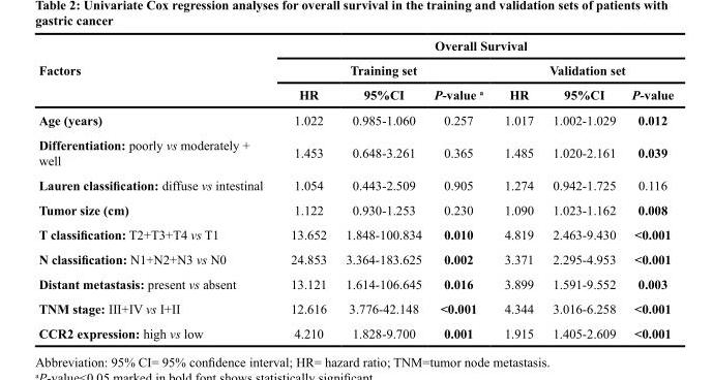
<table><thead><tr><td rowspan="3">Factors</td><td colspan="6">Overall Survival</td></tr><tr><td colspan="3">Training set</td><td colspan="3">Validation set</td></tr><tr><td>HR</td><td>95%CI</td><td>P-value a</td><td>HR</td><td>95%CI</td><td>P-value</td></tr></thead><tbody><tr><td>Age (years)</td><td>1.022</td><td>0.985-1.060</td><td>0.257</td><td>1.017</td><td>1.002-1.029</td><td>0.012</td></tr><tr><td>Differentiation: poorly vs moderately + well</td><td>1.453</td><td>0.648-3.261</td><td>0.365</td><td>1.485</td><td>1.020-2.161</td><td>0.039</td></tr><tr><td>Lauren classification: diffuse vs intestinal</td><td>1.054</td><td>0.443-2.509</td><td>0.905</td><td>1.274</td><td>0.942-1.725</td><td>0.116</td></tr><tr><td>Tumor size (cm)</td><td>1.122</td><td>0.930-1.253</td><td>0.230</td><td>1.090</td><td>1.023-1.162</td><td>0.008</td></tr><tr><td>T classification: T2+T3+T4 vs T1</td><td>13.652</td><td>1.848-100.834</td><td>0.010</td><td>4.819</td><td>2.463-9.430</td><td>&lt;0.001</td></tr><tr><td>N classification: N1+N2+N3 vs N0</td><td>24.853</td><td>3.364-183.625</td><td>0.002</td><td>3.371</td><td>2.295-4.953</td><td>&lt;0.001</td></tr><tr><td>Distant metastasis: present vs absent</td><td>13.121</td><td>1.614-106.645</td><td>0.016</td><td>3.899</td><td>1.591-9.552</td><td>0.003</td></tr><tr><td>TNM stage: III+IV vs I+II</td><td>12.616</td><td>3.776-42.148</td><td>&lt;0.001</td><td>4.344</td><td>3.016-6.258</td><td>&lt;0.001</td></tr><tr><td>CCR2 expression: high vs low</td><td>4.210</td><td>1.828-9.700</td><td>0.001</td><td>1.915</td><td>1.405-2.609</td><td>&lt;0.001</td></tr></tbody></table>